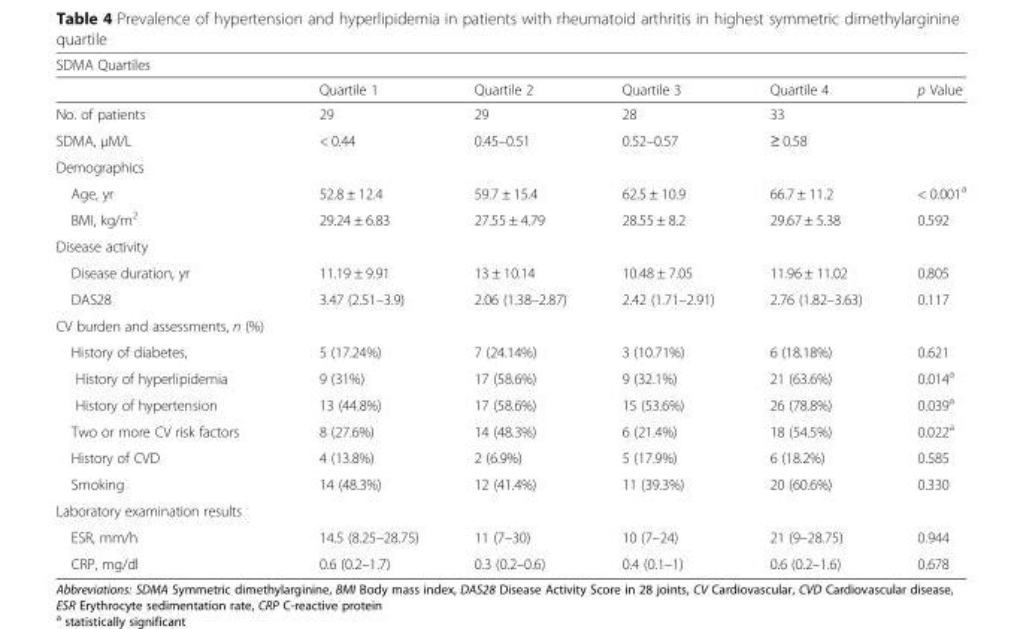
<table><thead><tr><td colspan="6">SDMA Quartiles</td></tr><tr><td></td><td>Quartile 1</td><td>Quartile 2</td><td>Quartile 3</td><td>Quartile 4</td><td>p Value</td></tr></thead><tbody><tr><td>No. of patients</td><td>29</td><td>29</td><td>28</td><td>33</td><td></td></tr><tr><td>SDMA, μM/L</td><td>&lt; 0.44</td><td>0.45–0.51</td><td>0.52–0.57</td><td>≥ 0.58</td><td></td></tr><tr><td colspan="6">Demographics</td></tr><tr><td>Age, yr</td><td>52.8 ± 12.4</td><td>59.7 ± 15.4</td><td>62.5 ± 10.9</td><td>66.7 ± 11.2</td><td>&lt; 0.001<sup>a</sup></td></tr><tr><td>BMI, kg/m<sup>2</sup></td><td>29.24 ± 6.83</td><td>27.55 ± 4.79</td><td>28.55 ± 8.2</td><td>29.67 ± 5.38</td><td>0.592</td></tr><tr><td colspan="6">Disease activity</td></tr><tr><td>Disease duration, yr</td><td>11.19 ± 9.91</td><td>13 ± 10.14</td><td>10.48 ± 7.05</td><td>11.96 ± 11.02</td><td>0.805</td></tr><tr><td>DAS28</td><td>3.47 (2.51–3.9)</td><td>2.06 (1.38–2.87)</td><td>2.42 (1.71–2.91)</td><td>2.76 (1.82–3.63)</td><td>0.117</td></tr><tr><td colspan="6">CV burden and assessments, n (%)</td></tr><tr><td>History of diabetes,</td><td>5 (17.24%)</td><td>7 (24.14%)</td><td>3 (10.71%)</td><td>6 (18.18%)</td><td>0.621</td></tr><tr><td>History of hyperlipidemia</td><td>9 (31%)</td><td>17 (58.6%)</td><td>9 (32.1%)</td><td>21 (63.6%)</td><td>0.014<sup>a</sup></td></tr><tr><td>History of hypertension</td><td>13 (44.8%)</td><td>17 (58.6%)</td><td>15 (53.6%)</td><td>26 (78.8%)</td><td>0.039<sup>a</sup></td></tr><tr><td>Two or more CV risk factors</td><td>8 (27.6%)</td><td>14 (48.3%)</td><td>6 (21.4%)</td><td>18 (54.5%)</td><td>0.022<sup>a</sup></td></tr><tr><td>History of CVD</td><td>4 (13.8%)</td><td>2 (6.9%)</td><td>5 (17.9%)</td><td>6 (18.2%)</td><td>0.585</td></tr><tr><td>Smoking</td><td>14 (48.3%)</td><td>12 (41.4%)</td><td>11 (39.3%)</td><td>20 (60.6%)</td><td>0.330</td></tr><tr><td colspan="6">Laboratory examination results</td></tr><tr><td>ESR, mm/h</td><td>14.5 (8.25–28.75)</td><td>11 (7–30)</td><td>10 (7–24)</td><td>21 (9–28.75)</td><td>0.944</td></tr><tr><td>CRP, mg/dl</td><td>0.6 (0.2–1.7)</td><td>0.3 (0.2–0.6)</td><td>0.4 (0.1–1)</td><td>0.6 (0.2–1.6)</td><td>0.678</td></tr></tbody></table>